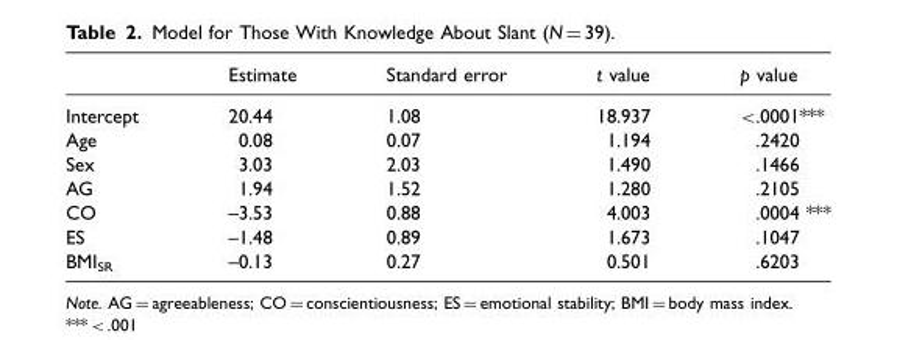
<table><thead><tr><td></td><td>Estimate</td><td>Standard error</td><td>t value</td><td>p value</td></tr></thead><tbody><tr><td>Intercept</td><td>20.44</td><td>1.08</td><td>18.937</td><td>&lt;.0001***</td></tr><tr><td>Age</td><td>0.08</td><td>0.07</td><td>1.194</td><td>.2420</td></tr><tr><td>Sex</td><td>3.03</td><td>2.03</td><td>1.490</td><td>.1466</td></tr><tr><td>AG</td><td>1.94</td><td>1.52</td><td>1.280</td><td>.2105</td></tr><tr><td>CO</td><td>–3.53</td><td>0.88</td><td>4.003</td><td>.0004 ***</td></tr><tr><td>ES</td><td>–1.48</td><td>0.89</td><td>1.673</td><td>.1047</td></tr><tr><td>BMI<sub>SR</sub></td><td>–0.13</td><td>0.27</td><td>0.501</td><td>.6203</td></tr></tbody></table>